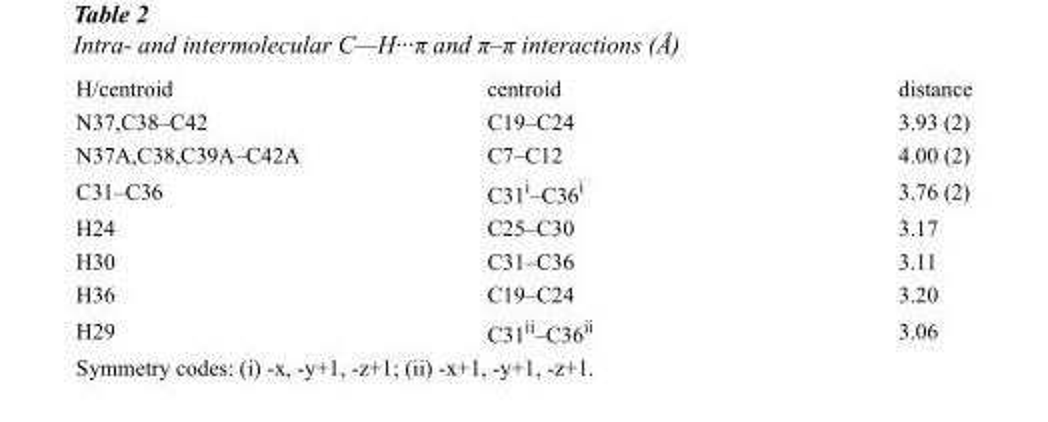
<table><thead><tr><td>H/centroid</td><td>centroid</td><td>distance</td></tr></thead><tbody><tr><td>N37,C38–C42</td><td>C19–C24</td><td>3.93 (2)</td></tr><tr><td>N37A,C38,C39A–C42A</td><td>C7–C12</td><td>4.00 (2)</td></tr><tr><td>C31–C36</td><td>C31<sup>i</sup>–C36<sup>i</sup></td><td>3.76 (2)</td></tr><tr><td>H24</td><td>C25–C30</td><td>3.17</td></tr><tr><td>H30</td><td>C31–C36</td><td>3.11</td></tr><tr><td>H36</td><td>C19–C24</td><td>3.20</td></tr><tr><td>H29</td><td>C31<sup>ii</sup>–C36<sup>ii</sup></td><td>3.06</td></tr></tbody></table>